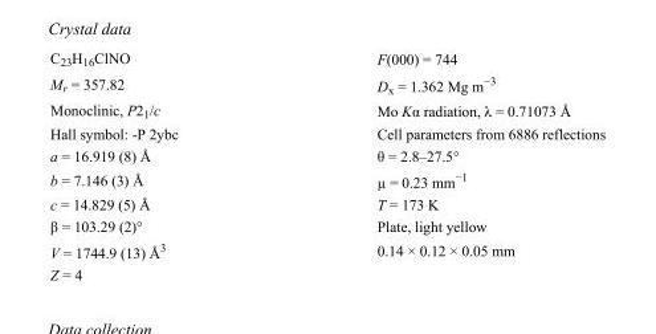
<table><tbody><tr><td>C<sub>23</sub>H<sub>16</sub>ClNO</td><td>F(000) = 744</td></tr><tr><td>M<sub>r</sub> = 357.82</td><td>D<sub>x</sub> = 1.362 Mg m<sup>−3</sup></td></tr><tr><td>Monoclinic, P2<sub>1</sub>/c</td><td>Mo Kα radiation, λ = 0.71073 Å</td></tr><tr><td>Hall symbol: -P 2ybc</td><td>Cell parameters from 6886 reflections</td></tr><tr><td>a = 16.919 (8) Å</td><td>θ = 2.8–27.5°</td></tr><tr><td>b = 7.146 (3) Å</td><td>µ = 0.23 mm<sup>−1</sup></td></tr><tr><td>c = 14.829 (5) Å</td><td>T = 173 K</td></tr><tr><td>β = 103.29 (2)°</td><td>Plate, light yellow</td></tr><tr><td>V = 1744.9 (13) Å<sup>3</sup></td><td>0.14 × 0.12 × 0.05 mm</td></tr><tr><td>Z = 4</td><td></td></tr></tbody></table>